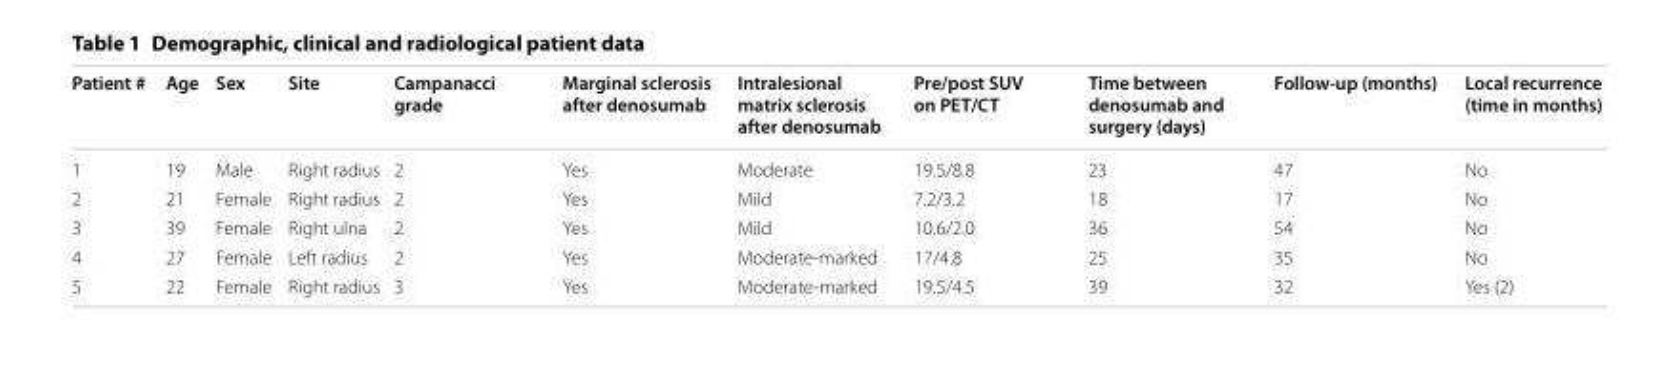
<table><thead><tr><td>Patient #</td><td>Age</td><td>Sex</td><td>Site</td><td>Campanacci grade</td><td>Marginal sclerosis after denosumab</td><td>Intralesional matrix sclerosis after denosumab</td><td>Pre/post SUV on PET/CT</td><td>Time between denosumab and surgery (days)</td><td>Follow‑up (months)</td><td>Local recurrence (time in months)</td></tr></thead><tbody><tr><td>1</td><td>19</td><td>Male</td><td>Right radius</td><td>2</td><td>Yes</td><td>Moderate</td><td>19.5/8.8</td><td>23</td><td>47</td><td>No</td></tr><tr><td>2</td><td>21</td><td>Female</td><td>Right radius</td><td>2</td><td>Yes</td><td>Mild</td><td>7.2/3.2</td><td>18</td><td>17</td><td>No</td></tr><tr><td>3</td><td>39</td><td>Female</td><td>Right ulna</td><td>2</td><td>Yes</td><td>Mild</td><td>10.6/2.0</td><td>36</td><td>54</td><td>No</td></tr><tr><td>4</td><td>27</td><td>Female</td><td>Left radius</td><td>2</td><td>Yes</td><td>Moderate-marked</td><td>17/4.8</td><td>25</td><td>35</td><td>No</td></tr><tr><td>5</td><td>22</td><td>Female</td><td>Right radius</td><td>3</td><td>Yes</td><td>Moderate-marked</td><td>19.5/4.5</td><td>39</td><td>32</td><td>Yes (2)</td></tr></tbody></table>